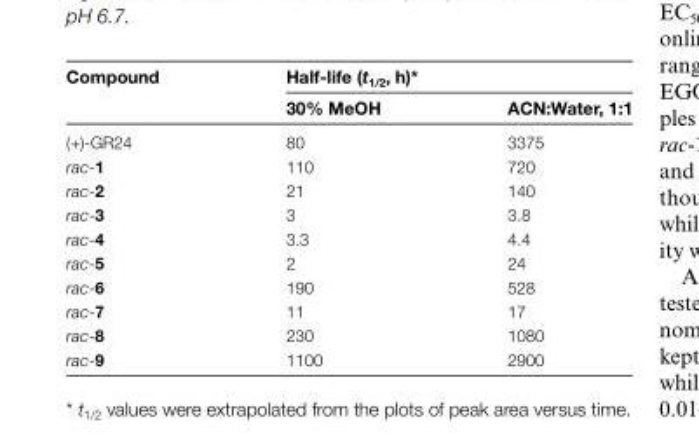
<table><thead><tr><td rowspan="2">Compound</td><td colspan="2">Half-life (t<sub>1/2</sub>, h)*</td></tr><tr><td>30% MeOH</td><td>ACN:Water, 1:1</td></tr></thead><tbody><tr><td>(+)-GR24</td><td>80</td><td>3375</td></tr><tr><td>rac-1</td><td>110</td><td>720</td></tr><tr><td>rac-2</td><td>21</td><td>140</td></tr><tr><td>rac-3</td><td>3</td><td>3.8</td></tr><tr><td>rac-4</td><td>3.3</td><td>4.4</td></tr><tr><td>rac-5</td><td>2</td><td>24</td></tr><tr><td>rac-6</td><td>190</td><td>528</td></tr><tr><td>rac-7</td><td>11</td><td>17</td></tr><tr><td>rac-8</td><td>230</td><td>1080</td></tr><tr><td>rac-9</td><td>1100</td><td>2900</td></tr></tbody></table>